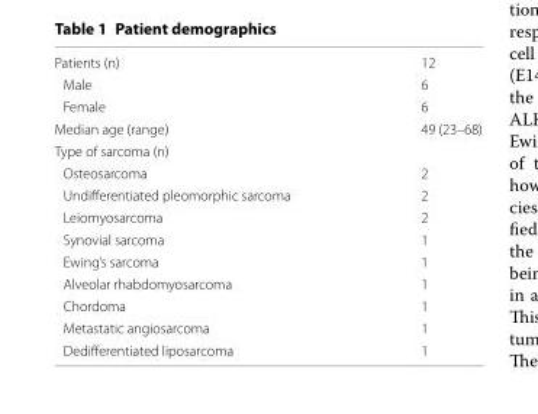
<table><tbody><tr><td>Patients (n)</td><td>12</td></tr><tr><td>Male</td><td>6</td></tr><tr><td>Female</td><td>6</td></tr><tr><td>Median age (range)</td><td>49 (23–68)</td></tr><tr><td colspan="2">Type of sarcoma (n)</td></tr><tr><td>Osteosarcoma</td><td>2</td></tr><tr><td>Undifferentiated pleomorphic sarcoma</td><td>2</td></tr><tr><td>Leiomyosarcoma</td><td>2</td></tr><tr><td>Synovial sarcoma</td><td>1</td></tr><tr><td>Ewing’s sarcoma</td><td>1</td></tr><tr><td>Alveolar rhabdomyosarcoma</td><td>1</td></tr><tr><td>Chordoma</td><td>1</td></tr><tr><td>Metastatic angiosarcoma</td><td>1</td></tr><tr><td>Dedifferentiated liposarcoma</td><td>1</td></tr></tbody></table>